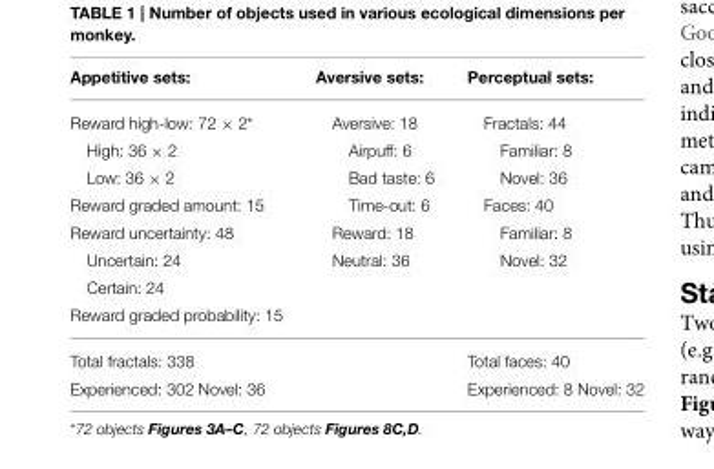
<table><thead><tr><td>Appetitive sets:</td><td>Aversive sets:</td><td>Perceptual sets:</td></tr></thead><tbody><tr><td>Reward high-low: 72 × 2*</td><td>Aversive: 18</td><td>Fractals: 44</td></tr><tr><td>High: 36 × 2</td><td>Airpuff: 6</td><td>Familiar: 8</td></tr><tr><td>Low: 36 × 2</td><td>Bad taste: 6</td><td>Novel: 36</td></tr><tr><td>Reward graded amount: 15</td><td>Time-out: 6</td><td>Faces: 40</td></tr><tr><td>Reward uncertainty: 48</td><td>Reward: 18</td><td>Familiar: 8</td></tr><tr><td>Uncertain: 24</td><td>Neutral: 36</td><td>Novel: 32</td></tr><tr><td colspan="3">Certain: 24</td></tr><tr><td colspan="3">Reward graded probability: 15</td></tr><tr><td>Total fractals: 338</td><td></td><td>Total faces: 40</td></tr><tr><td>Experienced: 302 Novel: 36</td><td></td><td>Experienced: 8 Novel: 32</td></tr></tbody></table>